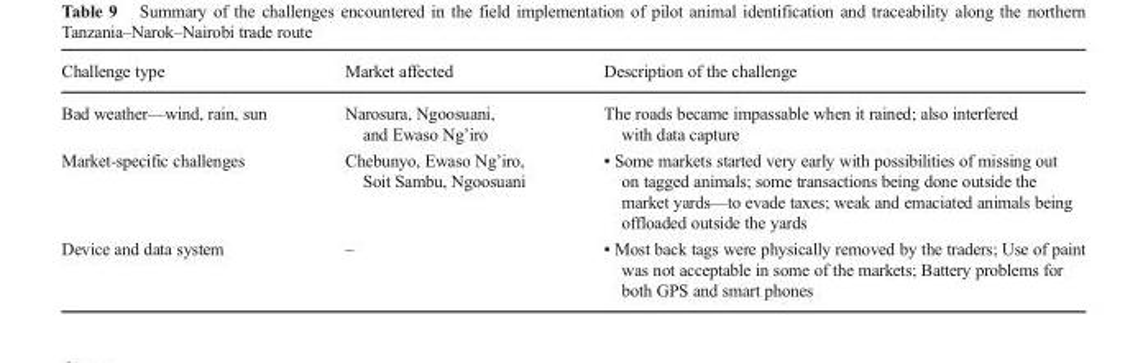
<table><thead><tr><td>Challenge type</td><td>Market affected</td><td>Description of the challenge</td></tr></thead><tbody><tr><td>Bad weather—wind, rain, sun</td><td>Narosura, Ngoosuani, and Ewaso Ng’iro</td><td>The roads became impassable when it rained; also interfered with data capture</td></tr><tr><td>Market-specific challenges</td><td>Chebunyo, Ewaso Ng’iro, Soit Sambu, Ngoosuani</td><td>▪ Some markets started very early with possibilities of missing out on tagged animals; some transactions being done outside the market yards—to evade taxes; weak and emaciated animals being offloaded outside the yards</td></tr><tr><td>Device and data system</td><td>–</td><td>▪ Most back tags were physically removed by the traders; Use of paint was not acceptable in some of the markets; Battery problems for both GPS and smart phones</td></tr></tbody></table>